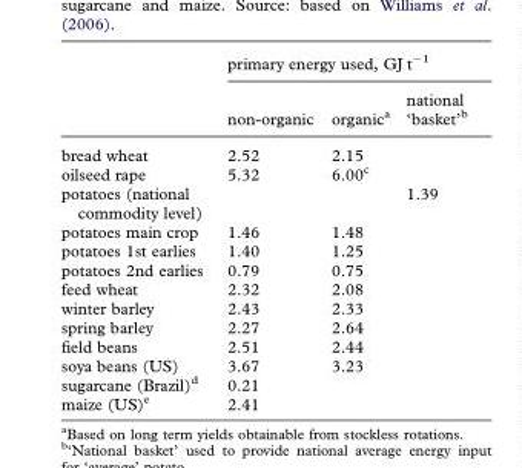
<table><thead><tr><td rowspan="2"></td><td colspan="3">primary energy used, GJ t<sup>−1</sup></td></tr><tr><td>non-organic</td><td>organic<sup>a</sup></td><td>national ‘basket’<sup>b</sup></td></tr></thead><tbody><tr><td>bread wheat</td><td>2.52</td><td>2.15</td><td></td></tr><tr><td>oilseed rape</td><td>5.32</td><td>6.00<sup>c</sup></td><td></td></tr><tr><td>potatoes (national commodity level)</td><td></td><td></td><td>1.39</td></tr><tr><td>potatoes main crop</td><td>1.46</td><td>1.48</td><td></td></tr><tr><td>potatoes 1st earlies</td><td>1.40</td><td>1.25</td><td></td></tr><tr><td>potatoes 2nd earlies</td><td>0.79</td><td>0.75</td><td></td></tr><tr><td>feed wheat</td><td>2.32</td><td>2.08</td><td></td></tr><tr><td>winter barley</td><td>2.43</td><td>2.33</td><td></td></tr><tr><td>spring barley</td><td>2.27</td><td>2.64</td><td></td></tr><tr><td>field beans</td><td>2.51</td><td>2.44</td><td></td></tr><tr><td>soya beans (US)</td><td>3.67</td><td>3.23</td><td></td></tr><tr><td>sugarcane (Brazil)<sup>d</sup></td><td>0.21</td><td></td><td></td></tr><tr><td>maize (US)<sup>e</sup></td><td>2.41</td><td></td><td></td></tr></tbody></table>